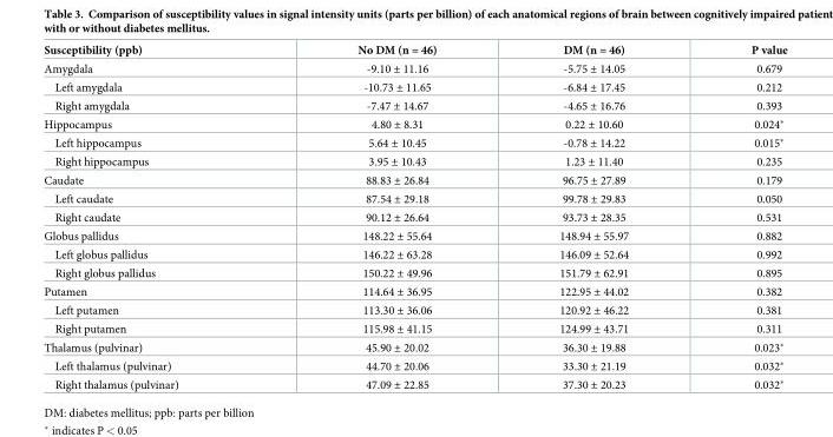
<table><thead><tr><td>Susceptibility (ppb)</td><td>No DM (n = 46)</td><td>DM (n = 46)</td><td>P value</td></tr></thead><tbody><tr><td>Amygdala</td><td>-9.10 ± 11.16</td><td>-5.75 ± 14.05</td><td>0.679</td></tr><tr><td>Left amygdala</td><td>-10.73 ± 11.65</td><td>-6.84 ± 17.45</td><td>0.212</td></tr><tr><td>Right amygdala</td><td>-7.47 ± 14.67</td><td>-4.65 ± 16.76</td><td>0.393</td></tr><tr><td>Hippocampus</td><td>4.80 ± 8.31</td><td>0.22 ± 10.60</td><td>0.024*</td></tr><tr><td>Left hippocampus</td><td>5.64 ± 10.45</td><td>-0.78 ± 14.22</td><td>0.015*</td></tr><tr><td>Right hippocampus</td><td>3.95 ± 10.43</td><td>1.23 ± 11.40</td><td>0.235</td></tr><tr><td>Caudate</td><td>88.83 ± 26.84</td><td>96.75 ± 27.89</td><td>0.179</td></tr><tr><td>Left caudate</td><td>87.54 ± 29.18</td><td>99.78 ± 29.83</td><td>0.050</td></tr><tr><td>Right caudate</td><td>90.12 ± 26.64</td><td>93.73 ± 28.35</td><td>0.531</td></tr><tr><td>Globus pallidus</td><td>148.22 ± 55.64</td><td>148.94 ± 55.97</td><td>0.882</td></tr><tr><td>Left globus pallidus</td><td>146.22 ± 63.28</td><td>146.09 ± 52.64</td><td>0.992</td></tr><tr><td>Right globus pallidus</td><td>150.22 ± 49.96</td><td>151.79 ± 62.91</td><td>0.895</td></tr><tr><td>Putamen</td><td>114.64 ± 36.95</td><td>122.95 ± 44.02</td><td>0.382</td></tr><tr><td>Left putamen</td><td>113.30 ± 36.06</td><td>120.92 ± 46.22</td><td>0.381</td></tr><tr><td>Right putamen</td><td>115.98 ± 41.15</td><td>124.99 ± 43.71</td><td>0.311</td></tr><tr><td>Thalamus (pulvinar)</td><td>45.90 ± 20.02</td><td>36.30 ± 19.88</td><td>0.023*</td></tr><tr><td>Left thalamus (pulvinar)</td><td>44.70 ± 20.06</td><td>33.30 ± 21.19</td><td>0.032*</td></tr><tr><td>Right thalamus (pulvinar)</td><td>47.09 ± 22.85</td><td>37.30 ± 20.23</td><td>0.032*</td></tr></tbody></table>